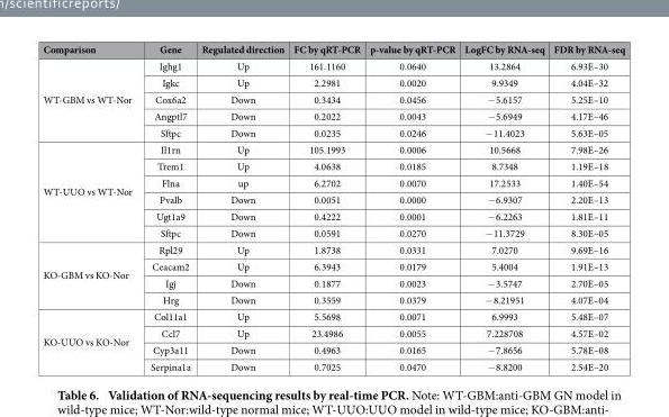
<table><thead><tr><td>Comparison</td><td>Gene</td><td>Regulated direction</td><td>FC by qRT-PCR</td><td>p-value by qRT-PCR</td><td>LogFC by RNA-seq</td><td>FDR by RNA-seq</td></tr></thead><tbody><tr><td rowspan="5">WT-GBM vs WT-Nor</td><td>Ighg1</td><td>Up</td><td>161.1160</td><td>0.0640</td><td>13.2864</td><td>6.93E–30</td></tr><tr><td>Igkc</td><td>Up</td><td>2.2981</td><td>0.0020</td><td>9.9349</td><td>4.04E–32</td></tr><tr><td>Cox6a2</td><td>Down</td><td>0.3434</td><td>0.0456</td><td>− 5.6157</td><td>5.25E–10</td></tr><tr><td>Angptl7</td><td>Down</td><td>0.2022</td><td>0.0043</td><td>− 5.6949</td><td>4.17E–46</td></tr><tr><td>Sftpc</td><td>Down</td><td>0.0235</td><td>0.0246</td><td>− 11.4023</td><td>5.63E–05</td></tr><tr><td rowspan="6">WT-UUO vs WT-Nor</td><td>Il1rn</td><td>Up</td><td>105.1993</td><td>0.0006</td><td>10.5668</td><td>7.98E–26</td></tr><tr><td>Trem1</td><td>Up</td><td>4.0638</td><td>0.0185</td><td>8.7348</td><td>1.19E–18</td></tr><tr><td>Flna</td><td>up</td><td>6.2702</td><td>0.0070</td><td>17.2533</td><td>1.40E–54</td></tr><tr><td>Pvalb</td><td>Down</td><td>0.0051</td><td>0.0000</td><td>− 6.9307</td><td>2.20E–13</td></tr><tr><td>Ugt1a9</td><td>Down</td><td>0.4222</td><td>0.0001</td><td>− 6.2263</td><td>1.81E–11</td></tr><tr><td>Sftpc</td><td>Down</td><td>0.0591</td><td>0.0270</td><td>− 11.3729</td><td>8.30E–05</td></tr><tr><td rowspan="4">KO-GBM vs KO-Nor</td><td>Rpl29</td><td>Up</td><td>1.8738</td><td>0.0331</td><td>7.0270</td><td>9.69E–16</td></tr><tr><td>Ceacam2</td><td>Up</td><td>6.3943</td><td>0.0179</td><td>5.4004</td><td>1.91E–13</td></tr><tr><td>Igj</td><td>Down</td><td>0.1877</td><td>0.0023</td><td>− 3.5747</td><td>2.70E–05</td></tr><tr><td>Hrg</td><td>Down</td><td>0.3559</td><td>0.0379</td><td>− 8.21951</td><td>4.07E–04</td></tr><tr><td rowspan="4">KO-UUO vs KO-Nor</td><td>Col11a1</td><td>Up</td><td>5.5698</td><td>0.0071</td><td>6.9993</td><td>5.48E–07</td></tr><tr><td>Ccl7</td><td>Up</td><td>23.4986</td><td>0.0055</td><td>7.228708</td><td>4.57E–02</td></tr><tr><td>Cyp3a11</td><td>Down</td><td>0.4963</td><td>0.0165</td><td>− 7.8656</td><td>5.78E–08</td></tr><tr><td>Serpina1a</td><td>Down</td><td>0.7025</td><td>0.0470</td><td>− 8.8200</td><td>2.54E–20</td></tr></tbody></table>